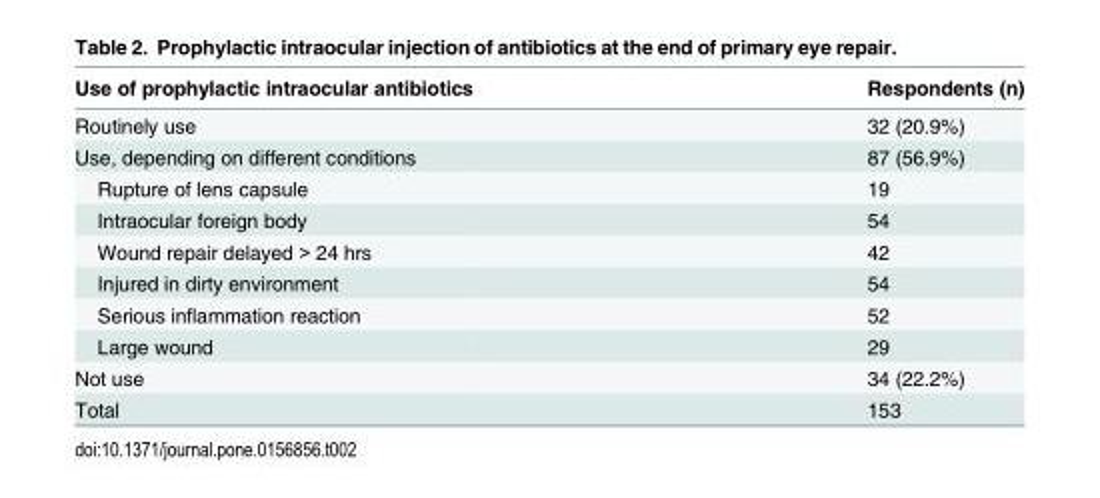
<table><thead><tr><td>Use of prophylactic intraocular antibiotics</td><td>Respondents (n)</td></tr></thead><tbody><tr><td>Routinely use</td><td>32 (20.9%)</td></tr><tr><td>Use, depending on different conditions</td><td>87 (56.9%)</td></tr><tr><td>Rupture of lens capsule</td><td>19</td></tr><tr><td>Intraocular foreign body</td><td>54</td></tr><tr><td>Wound repair delayed &gt; 24 hrs</td><td>42</td></tr><tr><td>Injured in dirty environment</td><td>54</td></tr><tr><td>Serious inflammation reaction</td><td>52</td></tr><tr><td>Large wound</td><td>29</td></tr><tr><td>Not use</td><td>34 (22.2%)</td></tr><tr><td>Total</td><td>153</td></tr></tbody></table>